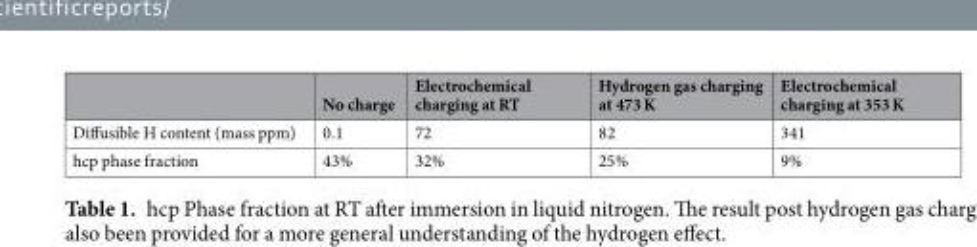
<table><thead><tr><td></td><td>No charge</td><td>Electrochemical charging at RT</td><td>Hydrogen gas charging at 473 K</td><td>Electrochemical charging at 353 K</td></tr></thead><tbody><tr><td>Diffusible H content (mass ppm)</td><td>0.1</td><td>72</td><td>82</td><td>341</td></tr><tr><td>hcp phase fraction</td><td>43%</td><td>32%</td><td>25%</td><td>9%</td></tr></tbody></table>